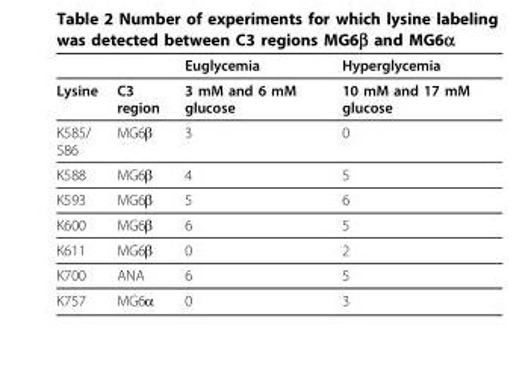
<table><thead><tr><td></td><td></td><td>Euglycemia</td><td>Hyperglycemia</td></tr></thead><tbody><tr><td>Lysine</td><td>C3 region</td><td>3 mM and 6 mM glucose</td><td>10 mM and 17 mM glucose</td></tr><tr><td>K585/ 586</td><td>MG6β</td><td>3</td><td>0</td></tr><tr><td>K588</td><td>MG6β</td><td>4</td><td>5</td></tr><tr><td>K593</td><td>MG6β</td><td>5</td><td>6</td></tr><tr><td>K600</td><td>MG6β</td><td>6</td><td>5</td></tr><tr><td>K611</td><td>MG6β</td><td>0</td><td>2</td></tr><tr><td>K700</td><td>ANA</td><td>6</td><td>5</td></tr><tr><td>K757</td><td>MG6α</td><td>0</td><td>3</td></tr></tbody></table>